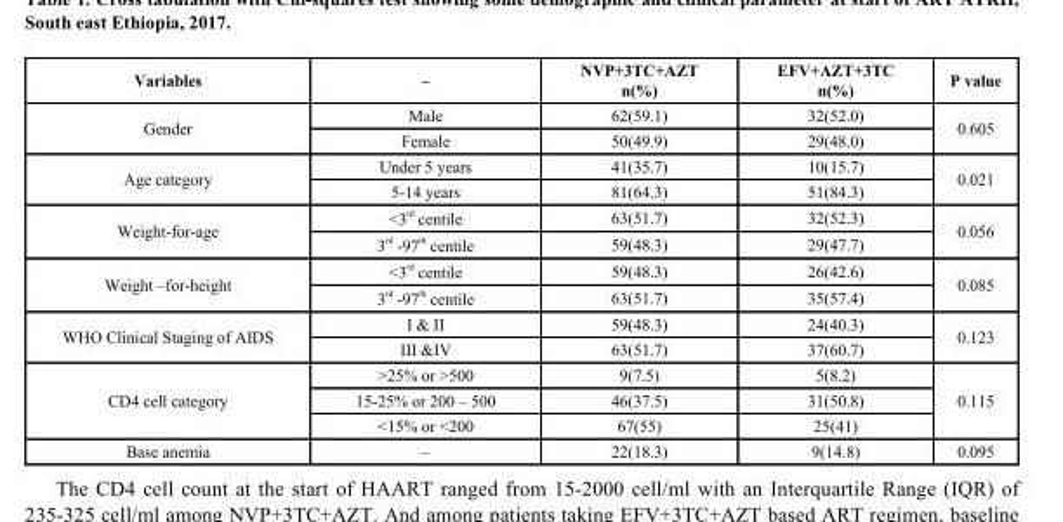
<table><thead><tr><td>Variables</td><td>–</td><td>NVP+3TC+AZT n(%)</td><td>EFV+AZT+3TC n(%)</td><td>P value</td></tr></thead><tbody><tr><td rowspan="2">Gender</td><td>Male</td><td>62(59.1)</td><td>32(52.0)</td><td rowspan="2">0.605</td></tr><tr><td>Female</td><td>50(49.9)</td><td>29(48.0)</td></tr><tr><td rowspan="2">Age category</td><td>Under 5 years</td><td>41(35.7)</td><td>10(15.7)</td><td rowspan="2">0.021</td></tr><tr><td>5-14 years</td><td>81(64.3)</td><td>51(84.3)</td></tr><tr><td rowspan="2">Weight-for-age</td><td>&lt;3 <sup>rd</sup> centile</td><td>63(51.7)</td><td>32(52.3)</td><td rowspan="2">0.056</td></tr><tr><td>3 <sup>rd</sup> -97 <sup>th</sup> centile</td><td>59(48.3)</td><td>29(47.7)</td></tr><tr><td rowspan="2">Weight –for-height</td><td>&lt;3 <sup>rd</sup> centile</td><td>59(48.3)</td><td>26(42.6)</td><td rowspan="2">0.085</td></tr><tr><td>3 <sup>rd</sup> -97 <sup>th</sup> centile</td><td>63(51.7)</td><td>35(57.4)</td></tr><tr><td rowspan="2">WHO Clinical Staging of AIDS</td><td>I &amp; II</td><td>59(48.3)</td><td>24(40.3)</td><td rowspan="2">0.123</td></tr><tr><td>III &amp;IV</td><td>63(51.7)</td><td>37(60.7)</td></tr><tr><td rowspan="3">CD4 cell category</td><td>&gt;25% or &gt;500</td><td>9(7.5)</td><td>5(8.2)</td><td rowspan="3">0.115</td></tr><tr><td>15-25% or 200 – 500</td><td>46(37.5)</td><td>31(50.8)</td></tr><tr><td>&lt;15% or &lt;200</td><td>67(55)</td><td>25(41)</td></tr><tr><td>Base anemia</td><td>–</td><td>22(18.3)</td><td>9(14.8)</td><td>0.095</td></tr></tbody></table>